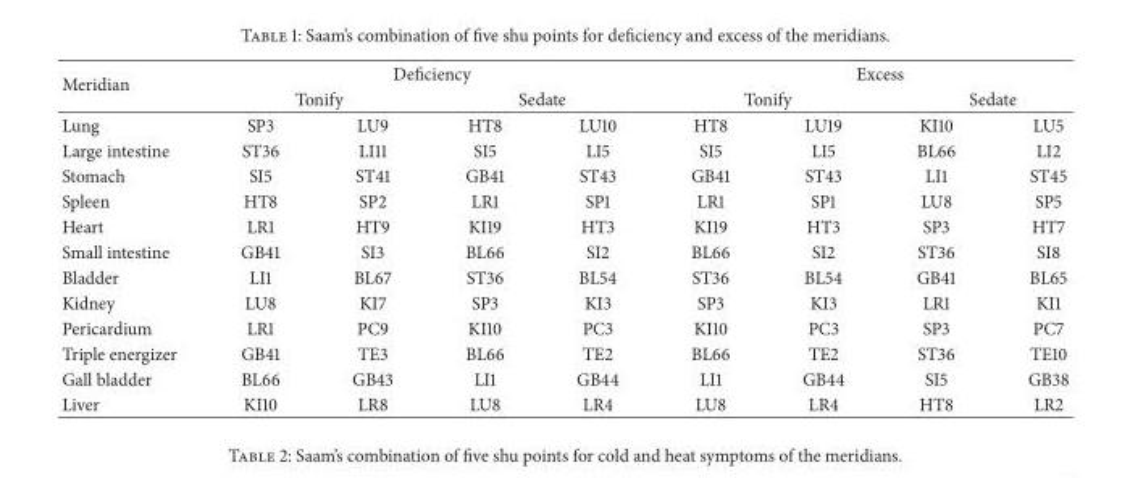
<table><thead><tr><td rowspan="3">Meridian Lung</td><td colspan="4">Deficiency</td><td colspan="4">Excess</td></tr><tr><td colspan="2">Tonify</td><td colspan="2">Sedate</td><td colspan="2">Tonify</td><td colspan="2">Sedate</td></tr><tr><td>SP3</td><td>LU9</td><td>HT8</td><td>LU10</td><td>HT8</td><td>LU19</td><td>KI10</td><td>LU5</td></tr></thead><tbody><tr><td>Large intestine</td><td>ST36</td><td>LI11</td><td>SI5</td><td>LI5</td><td>SI5</td><td>LI5</td><td>BL66</td><td>LI2</td></tr><tr><td>Stomach</td><td>SI5</td><td>ST41</td><td>GB41</td><td>ST43</td><td>GB41</td><td>ST43</td><td>LI1</td><td>ST45</td></tr><tr><td>Spleen</td><td>HT8</td><td>SP2</td><td>LR1</td><td>SP1</td><td>LR1</td><td>SP1</td><td>LU8</td><td>SP5</td></tr><tr><td>Heart</td><td>LR1</td><td>HT9</td><td>KI19</td><td>HT3</td><td>KI19</td><td>HT3</td><td>SP3</td><td>HT7</td></tr><tr><td>Small intestine</td><td>GB41</td><td>SI3</td><td>BL66</td><td>SI2</td><td>BL66</td><td>SI2</td><td>ST36</td><td>SI8</td></tr><tr><td>Bladder</td><td>LI1</td><td>BL67</td><td>ST36</td><td>BL54</td><td>ST36</td><td>BL54</td><td>GB41</td><td>BL65</td></tr><tr><td>Kidney</td><td>LU8</td><td>KI7</td><td>SP3</td><td>KI3</td><td>SP3</td><td>KI3</td><td>LR1</td><td>KI1</td></tr><tr><td>Pericardium</td><td>LR1</td><td>PC9</td><td>KI10</td><td>PC3</td><td>KI10</td><td>PC3</td><td>SP3</td><td>PC7</td></tr><tr><td>Triple energizer</td><td>GB41</td><td>TE3</td><td>BL66</td><td>TE2</td><td>BL66</td><td>TE2</td><td>ST36</td><td>TE10</td></tr><tr><td>Gall bladder</td><td>BL66</td><td>GB43</td><td>LI1</td><td>GB44</td><td>LI1</td><td>GB44</td><td>SI5</td><td>GB38</td></tr><tr><td>Liver</td><td>KI10</td><td>LR8</td><td>LU8</td><td>LR4</td><td>LU8</td><td>LR4</td><td>HT8</td><td>LR2</td></tr></tbody></table>